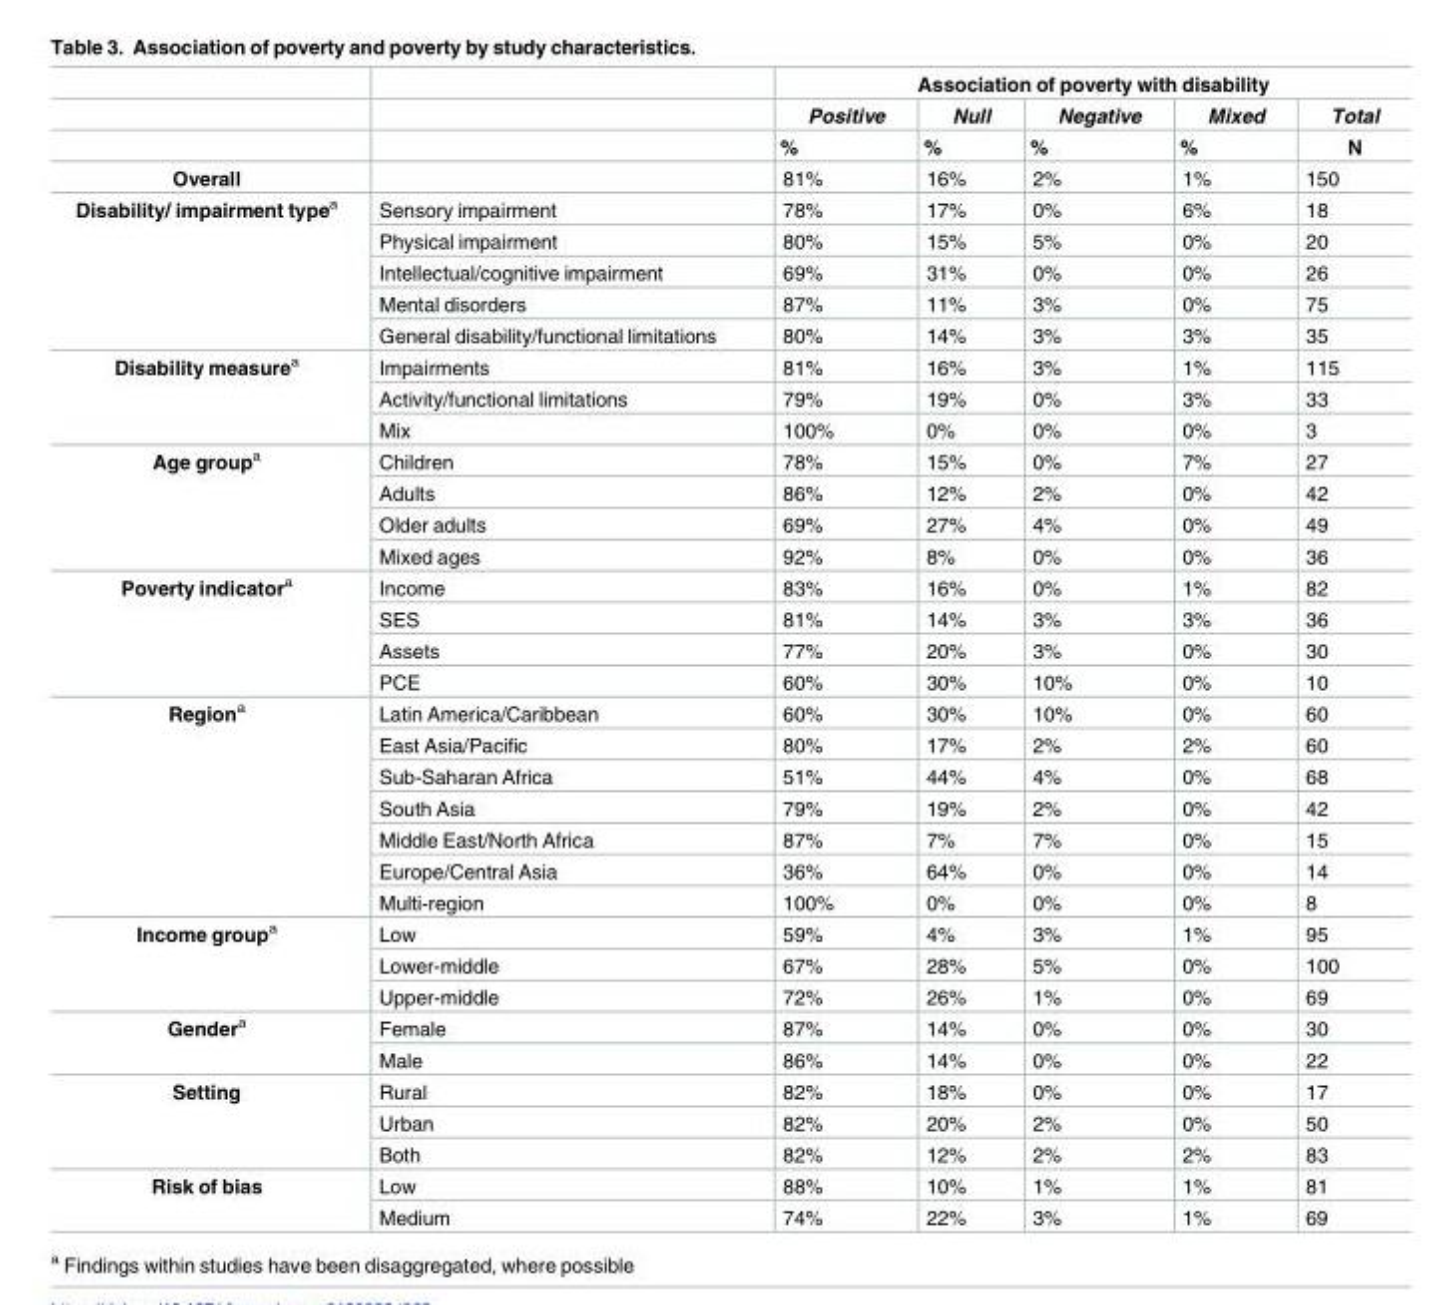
<table><thead><tr><td rowspan="3"></td><td rowspan="3"></td><td colspan="5">Association of poverty with disability</td></tr><tr><td rowspan="2">Positive %</td><td rowspan="2">Null %</td><td rowspan="2">Negative %</td><td rowspan="2">Mixed %</td><td rowspan="2">Total N</td></tr><tr></tr></thead><tbody><tr><td>Overall</td><td></td><td>81%</td><td>16%</td><td>2%</td><td>1%</td><td>150</td></tr><tr><td rowspan="5">Disability/ impairment type<sup>a</sup></td><td>Sensory impairment</td><td>78%</td><td>17%</td><td>0%</td><td>6%</td><td>18</td></tr><tr><td>Physical impairment</td><td>80%</td><td>15%</td><td>5%</td><td>0%</td><td>20</td></tr><tr><td>Intellectual/cognitive impairment</td><td>69%</td><td>31%</td><td>0%</td><td>0%</td><td>26</td></tr><tr><td>Mental disorders</td><td>87%</td><td>11%</td><td>3%</td><td>0%</td><td>75</td></tr><tr><td>General disability/functional limitations</td><td>80%</td><td>14%</td><td>3%</td><td>3%</td><td>35</td></tr><tr><td rowspan="3">Disability measure<sup>a</sup></td><td>Impairments</td><td>81%</td><td>16%</td><td>3%</td><td>1%</td><td>115</td></tr><tr><td>Activity/functional limitations</td><td>79%</td><td>19%</td><td>0%</td><td>3%</td><td>33</td></tr><tr><td>Mix</td><td>100%</td><td>0%</td><td>0%</td><td>0%</td><td>3</td></tr><tr><td rowspan="4">Age group<sup>a</sup></td><td>Children</td><td>78%</td><td>15%</td><td>0%</td><td>7%</td><td>27</td></tr><tr><td>Adults</td><td>86%</td><td>12%</td><td>2%</td><td>0%</td><td>42</td></tr><tr><td>Older adults</td><td>69%</td><td>27%</td><td>4%</td><td>0%</td><td>49</td></tr><tr><td>Mixed ages</td><td>92%</td><td>8%</td><td>0%</td><td>0%</td><td>36</td></tr><tr><td rowspan="4">Poverty indicator<sup>a</sup></td><td>Income</td><td>83%</td><td>16%</td><td>0%</td><td>1%</td><td>82</td></tr><tr><td>SES</td><td>81%</td><td>14%</td><td>3%</td><td>3%</td><td>36</td></tr><tr><td>Assets</td><td>77%</td><td>20%</td><td>3%</td><td>0%</td><td>30</td></tr><tr><td>PCE</td><td>60%</td><td>30%</td><td>10%</td><td>0%</td><td>10</td></tr><tr><td rowspan="7">Region<sup>a</sup></td><td>Latin America/Caribbean</td><td>60%</td><td>30%</td><td>10%</td><td>0%</td><td>60</td></tr><tr><td>East Asia/Pacific</td><td>80%</td><td>17%</td><td>2%</td><td>2%</td><td>60</td></tr><tr><td>Sub-Saharan Africa</td><td>51%</td><td>44%</td><td>4%</td><td>0%</td><td>68</td></tr><tr><td>South Asia</td><td>79%</td><td>19%</td><td>2%</td><td>0%</td><td>42</td></tr><tr><td>Middle East/North Africa</td><td>87%</td><td>7%</td><td>7%</td><td>0%</td><td>15</td></tr><tr><td>Europe/Central Asia</td><td>36%</td><td>64%</td><td>0%</td><td>0%</td><td>14</td></tr><tr><td>Multi-region</td><td>100%</td><td>0%</td><td>0%</td><td>0%</td><td>8</td></tr><tr><td rowspan="3">Income group<sup>a</sup></td><td>Low</td><td>59%</td><td>4%</td><td>3%</td><td>1%</td><td>95</td></tr><tr><td>Lower-middle</td><td>67%</td><td>28%</td><td>5%</td><td>0%</td><td>100</td></tr><tr><td>Upper-middle</td><td>72%</td><td>26%</td><td>1%</td><td>0%</td><td>69</td></tr><tr><td rowspan="2">Gender<sup>a</sup></td><td>Female</td><td>87%</td><td>14%</td><td>0%</td><td>0%</td><td>30</td></tr><tr><td>Male</td><td>86%</td><td>14%</td><td>0%</td><td>0%</td><td>22</td></tr><tr><td rowspan="3">Setting</td><td>Rural</td><td>82%</td><td>18%</td><td>0%</td><td>0%</td><td>17</td></tr><tr><td>Urban</td><td>82%</td><td>20%</td><td>2%</td><td>0%</td><td>50</td></tr><tr><td>Both</td><td>82%</td><td>12%</td><td>2%</td><td>2%</td><td>83</td></tr><tr><td rowspan="2">Risk of bias</td><td>Low</td><td>88%</td><td>10%</td><td>1%</td><td>1%</td><td>81</td></tr><tr><td>Medium</td><td>74%</td><td>22%</td><td>3%</td><td>1%</td><td>69</td></tr></tbody></table>